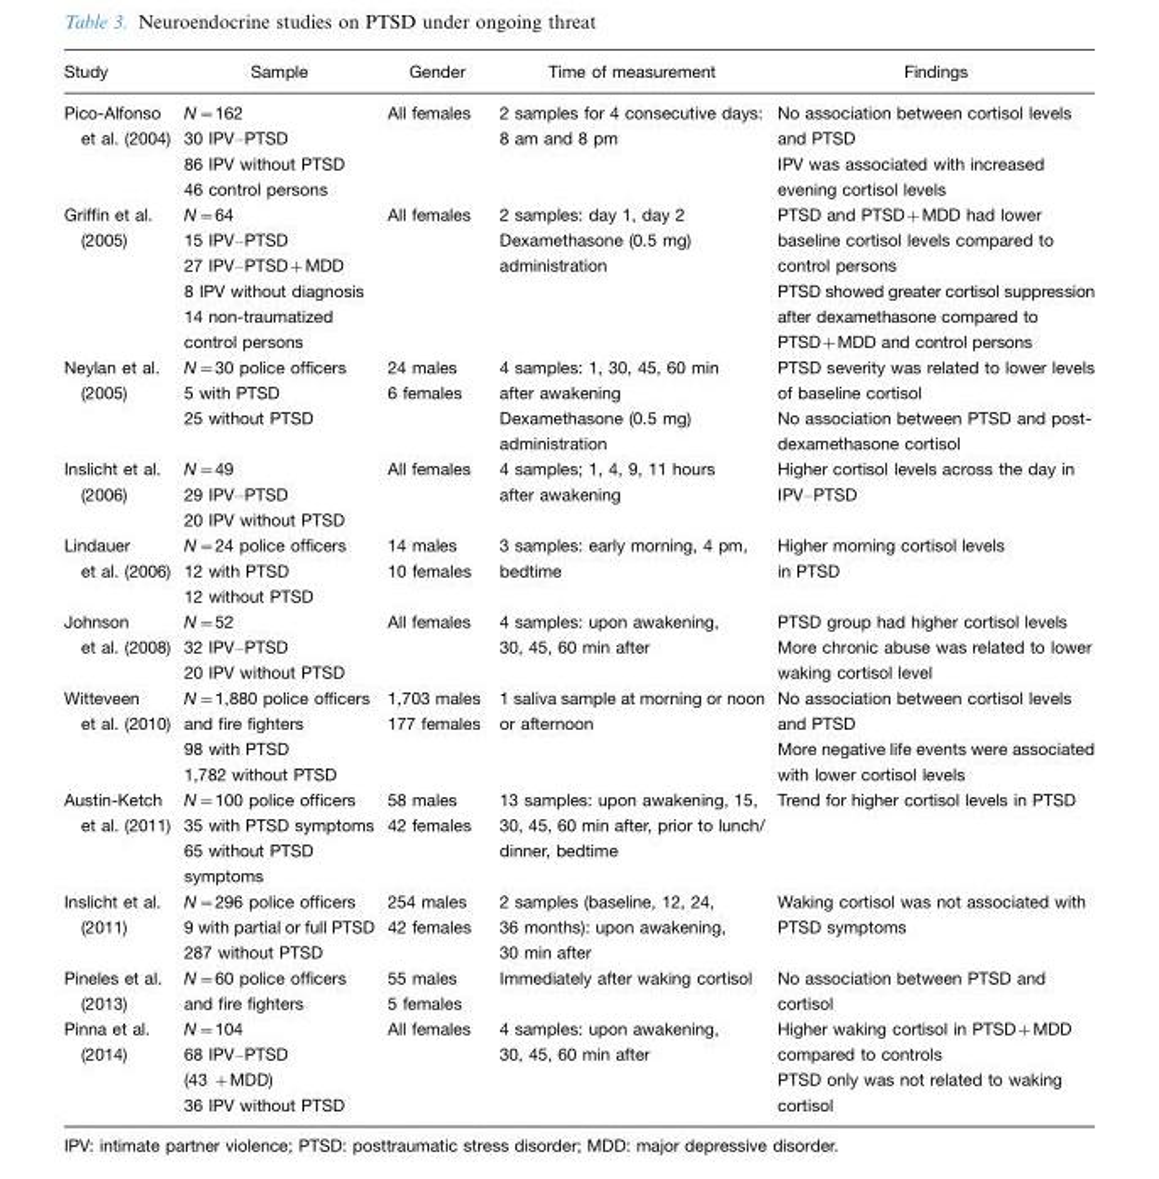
<table><thead><tr><td>Study</td><td>Sample</td><td>Gender</td><td>Time of measurement</td><td>Findings</td></tr></thead><tbody><tr><td>Pico-Alfonso et al. (2004)</td><td>N=162 30 IPV–PTSD 86 IPV without PTSD 46 control persons</td><td>All females</td><td>2 samples for 4 consecutive days: 8 am and 8 pm</td><td>No association between cortisol levels and PTSD IPV was associated with increased evening cortisol levels</td></tr><tr><td>Griffin et al. (2005)</td><td>N=64 15 IPV–PTSD 27 IPV–PTSD+MDD 8 IPV without diagnosis 14 non-traumatized control persons</td><td>All females</td><td>2 samples: day 1, day 2 Dexamethasone (0.5 mg) administration</td><td>PTSD and PTSD+MDD had lower baseline cortisol levels compared to control persons PTSD showed greater cortisol suppression after dexamethasone compared to PTSD+MDD and control persons</td></tr><tr><td>Neylan et al. (2005)</td><td>N=30 police officers 5 with PTSD 25 without PTSD</td><td>24 males 6 females</td><td>4 samples: 1, 30, 45, 60 min after awakening Dexamethasone (0.5 mg) administration</td><td>PTSD severity was related to lower levels of baseline cortisol No association between PTSD and post- dexamethasone cortisol</td></tr><tr><td>Inslicht et al. (2006)</td><td>N=49 29 IPV–PTSD 20 IPV without PTSD</td><td>All females</td><td>4 samples; 1, 4, 9, 11 hours after awakening</td><td>Higher cortisol levels across the day in IPV–PTSD</td></tr><tr><td>Lindauer et al. (2006)</td><td>N=24 police officers 12 with PTSD 12 without PTSD</td><td>14 males 10 females</td><td>3 samples: early morning, 4 pm, bedtime</td><td>Higher morning cortisol levels in PTSD</td></tr><tr><td>Johnson et al. (2008)</td><td>N=52 32 IPV–PTSD 20 IPV without PTSD</td><td>All females</td><td>4 samples: upon awakening, 30, 45, 60 min after</td><td>PTSD group had higher cortisol levels More chronic abuse was related to lower waking cortisol level</td></tr><tr><td>Witteveen et al. (2010)</td><td>N=1,880 police officers and fire fighters 98 with PTSD 1,782 without PTSD</td><td>1,703 males 177 females</td><td>1 saliva sample at morning or noon or afternoon</td><td>No association between cortisol levels and PTSD More negative life events were associated with lower cortisol levels</td></tr><tr><td>Austin-Ketch et al. (2011)</td><td>N=100 police officers 35 with PTSD symptoms 65 without PTSD symptoms</td><td>58 males 42 females</td><td>13 samples: upon awakening, 15, 30, 45, 60 min after, prior to lunch/ dinner, bedtime</td><td>Trend for higher cortisol levels in PTSD</td></tr><tr><td>Inslicht et al. (2011)</td><td>N=296 police officers 9 with partial or full PTSD 287 without PTSD</td><td>254 males 42 females</td><td>2 samples (baseline, 12, 24, 36 months): upon awakening, 30 min after</td><td>Waking cortisol was not associated with PTSD symptoms</td></tr><tr><td>Pineles et al. (2013)</td><td>N=60 police officers and fire fighters</td><td>55 males 5 females</td><td>Immediately after waking cortisol</td><td>No association between PTSD and cortisol</td></tr><tr><td>Pinna et al. (2014)</td><td>N=104 68 IPV–PTSD (43 +MDD) 36 IPV without PTSD</td><td>All females</td><td>4 samples: upon awakening, 30, 45, 60 min after</td><td>Higher waking cortisol in PTSD+MDD compared to controls PTSD only was not related to waking cortisol</td></tr></tbody></table>